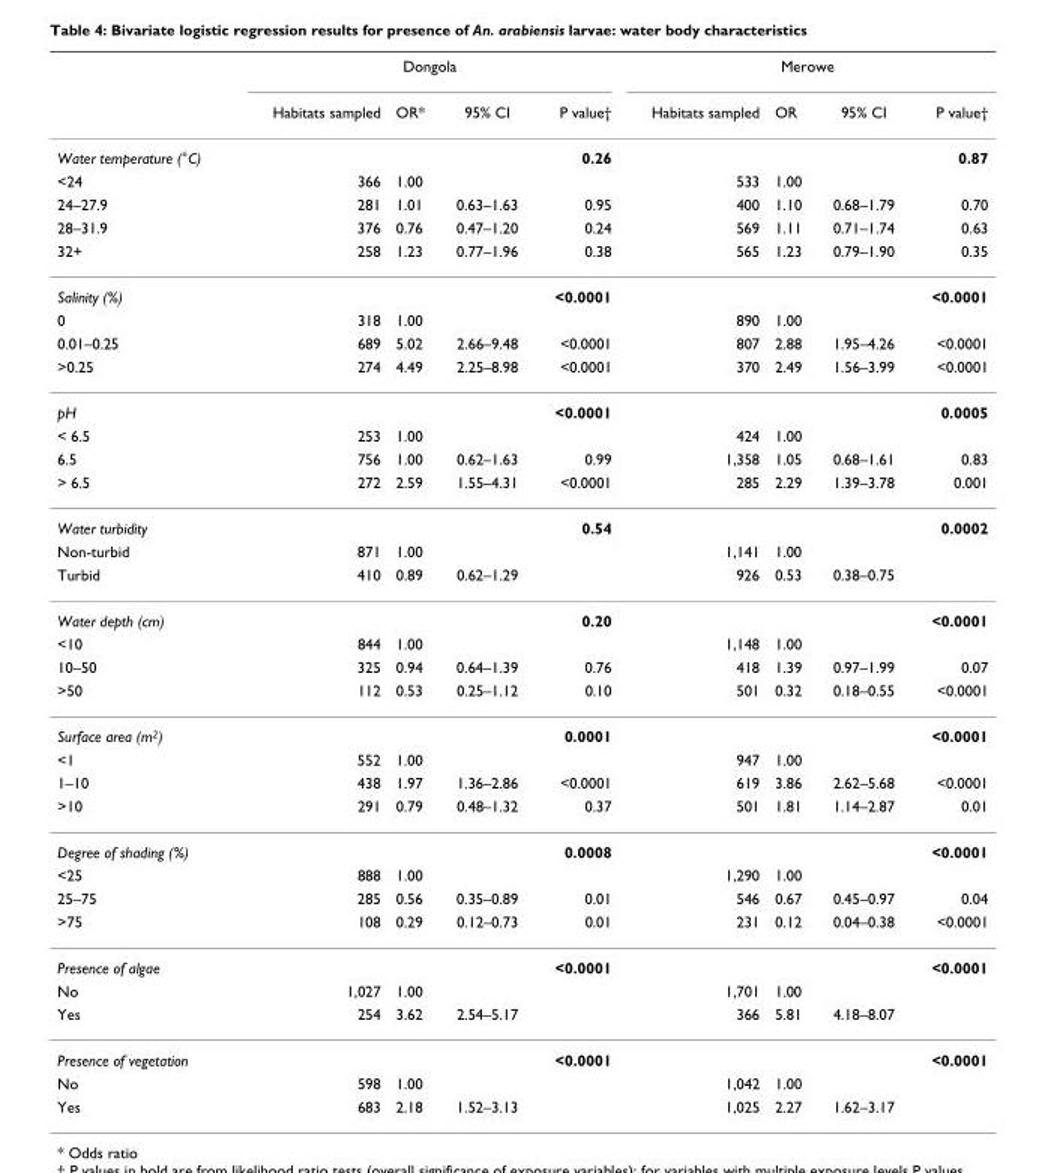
<table><thead><tr><td rowspan="2"></td><td colspan="4">Dongola</td><td colspan="4">Merowe</td></tr><tr><td>Habitats sampled</td><td>OR*</td><td>95% CI</td><td>P value†</td><td>Habitats sampled</td><td>OR</td><td>95% CI</td><td>P value†</td></tr></thead><tbody><tr><td>Water temperature (°C)</td><td></td><td></td><td></td><td>0.26</td><td></td><td></td><td></td><td>0.87</td></tr><tr><td>&lt;24</td><td>366</td><td>1.00</td><td></td><td></td><td>533</td><td>1.00</td><td></td><td></td></tr><tr><td>24–27.9</td><td>281</td><td>1.01</td><td>0.63–1.63</td><td>0.95</td><td>400</td><td>1.10</td><td>0.68–1.79</td><td>0.70</td></tr><tr><td>28–31.9</td><td>376</td><td>0.76</td><td>0.47–1.20</td><td>0.24</td><td>569</td><td>1.11</td><td>0.71–1.74</td><td>0.63</td></tr><tr><td>32+</td><td>258</td><td>1.23</td><td>0.77–1.96</td><td>0.38</td><td>565</td><td>1.23</td><td>0.79–1.90</td><td>0.35</td></tr><tr><td>Salinity (%)</td><td></td><td></td><td></td><td>&lt;0.0001</td><td></td><td></td><td></td><td>&lt;0.0001</td></tr><tr><td>0</td><td>318</td><td>1.00</td><td></td><td></td><td>890</td><td>1.00</td><td></td><td></td></tr><tr><td>0.01–0.25</td><td>689</td><td>5.02</td><td>2.66–9.48</td><td>&lt;0.0001</td><td>807</td><td>2.88</td><td>1.95–4.26</td><td>&lt;0.0001</td></tr><tr><td>&gt;0.25</td><td>274</td><td>4.49</td><td>2.25–8.98</td><td>&lt;0.0001</td><td>370</td><td>2.49</td><td>1.56–3.99</td><td>&lt;0.0001</td></tr><tr><td>pH</td><td></td><td></td><td></td><td>&lt;0.0001</td><td></td><td></td><td></td><td>0.0005</td></tr><tr><td>&lt; 6.5</td><td>253</td><td>1.00</td><td></td><td></td><td>424</td><td>1.00</td><td></td><td></td></tr><tr><td>6.5</td><td>756</td><td>1.00</td><td>0.62–1.63</td><td>0.99</td><td>1,358</td><td>1.05</td><td>0.68–1.61</td><td>0.83</td></tr><tr><td>&gt; 6.5</td><td>272</td><td>2.59</td><td>1.55–4.31</td><td>&lt;0.0001</td><td>285</td><td>2.29</td><td>1.39–3.78</td><td>0.001</td></tr><tr><td>Water turbidity</td><td></td><td></td><td></td><td>0.54</td><td></td><td></td><td></td><td>0.0002</td></tr><tr><td>Non-turbid</td><td>871</td><td>1.00</td><td></td><td></td><td>1,141</td><td>1.00</td><td></td><td></td></tr><tr><td>Turbid</td><td>410</td><td>0.89</td><td>0.62–1.29</td><td></td><td>926</td><td>0.53</td><td>0.38–0.75</td><td></td></tr><tr><td>Water depth (cm)</td><td></td><td></td><td></td><td>0.20</td><td></td><td></td><td></td><td>&lt;0.0001</td></tr><tr><td>&lt;10</td><td>844</td><td>1.00</td><td></td><td></td><td>1,148</td><td>1.00</td><td></td><td></td></tr><tr><td>10–50</td><td>325</td><td>0.94</td><td>0.64–1.39</td><td>0.76</td><td>418</td><td>1.39</td><td>0.97–1.99</td><td>0.07</td></tr><tr><td>&gt;50</td><td>112</td><td>0.53</td><td>0.25–1.12</td><td>0.10</td><td>501</td><td>0.32</td><td>0.18–0.55</td><td>&lt;0.0001</td></tr><tr><td>Surface area (m2)</td><td></td><td></td><td></td><td>0.0001</td><td></td><td></td><td></td><td>&lt;0.0001</td></tr><tr><td>&lt;1</td><td>552</td><td>1.00</td><td></td><td></td><td>947</td><td>1.00</td><td></td><td></td></tr><tr><td>1–10</td><td>438</td><td>1.97</td><td>1.36–2.86</td><td>&lt;0.0001</td><td>619</td><td>3.86</td><td>2.62–5.68</td><td>&lt;0.0001</td></tr><tr><td>&gt;10</td><td>291</td><td>0.79</td><td>0.48–1.32</td><td>0.37</td><td>501</td><td>1.81</td><td>1.14–2.87</td><td>0.01</td></tr><tr><td>Degree of shading (%)</td><td></td><td></td><td></td><td>0.0008</td><td></td><td></td><td></td><td>&lt;0.0001</td></tr><tr><td>&lt;25</td><td>888</td><td>1.00</td><td></td><td></td><td>1,290</td><td>1.00</td><td></td><td></td></tr><tr><td>25–75</td><td>285</td><td>0.56</td><td>0.35–0.89</td><td>0.01</td><td>546</td><td>0.67</td><td>0.45–0.97</td><td>0.04</td></tr><tr><td>&gt;75</td><td>108</td><td>0.29</td><td>0.12–0.73</td><td>0.01</td><td>231</td><td>0.12</td><td>0.04–0.38</td><td>&lt;0.0001</td></tr><tr><td>Presence of algae</td><td></td><td></td><td></td><td>&lt;0.0001</td><td></td><td></td><td></td><td>&lt;0.0001</td></tr><tr><td>No</td><td>1,027</td><td>1.00</td><td></td><td></td><td>1,701</td><td>1.00</td><td></td><td></td></tr><tr><td>Yes</td><td>254</td><td>3.62</td><td>2.54–5.17</td><td></td><td>366</td><td>5.81</td><td>4.18–8.07</td><td></td></tr><tr><td>Presence of vegetation</td><td></td><td></td><td></td><td>&lt;0.0001</td><td></td><td></td><td></td><td>&lt;0.0001</td></tr><tr><td>No</td><td>598</td><td>1.00</td><td></td><td></td><td>1,042</td><td>1.00</td><td></td><td></td></tr><tr><td>Yes</td><td>683</td><td>2.18</td><td>1.52–3.13</td><td></td><td>1,025</td><td>2.27</td><td>1.62–3.17</td><td></td></tr></tbody></table>